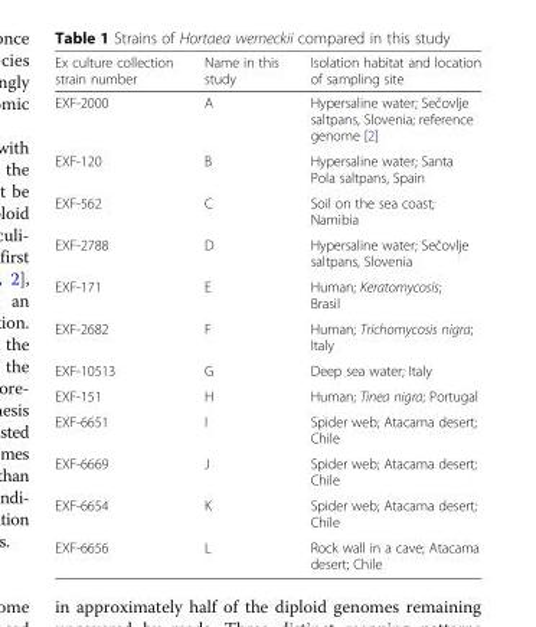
<table><thead><tr><td>Ex culture collection strain number</td><td>Name in this study</td><td>Isolation habitat and location of sampling site</td></tr></thead><tbody><tr><td>EXF-2000</td><td>A</td><td>Hypersaline water; Sečovlje saltpans, Slovenia; reference genome [2]</td></tr><tr><td>EXF-120</td><td>B</td><td>Hypersaline water; Santa Pola saltpans, Spain</td></tr><tr><td>EXF-562</td><td>C</td><td>Soil on the sea coast; Namibia</td></tr><tr><td>EXF-2788</td><td>D</td><td>Hypersaline water; Sečovlje saltpans, Slovenia</td></tr><tr><td>EXF-171</td><td>E</td><td>Human; Keratomycosis; Brasil</td></tr><tr><td>EXF-2682</td><td>F</td><td>Human; Trichomycosis nigra; Italy</td></tr><tr><td>EXF-10513</td><td>G</td><td>Deep sea water; Italy</td></tr><tr><td>EXF-151</td><td>H</td><td>Human; Tinea nigra; Portugal</td></tr><tr><td>EXF-6651</td><td>I</td><td>Spider web; Atacama desert; Chile</td></tr><tr><td>EXF-6669</td><td>J</td><td>Spider web; Atacama desert; Chile</td></tr><tr><td>EXF-6654</td><td>K</td><td>Spider web; Atacama desert; Chile</td></tr><tr><td>EXF-6656</td><td>L</td><td>Rock wall in a cave; Atacama desert; Chile</td></tr></tbody></table>